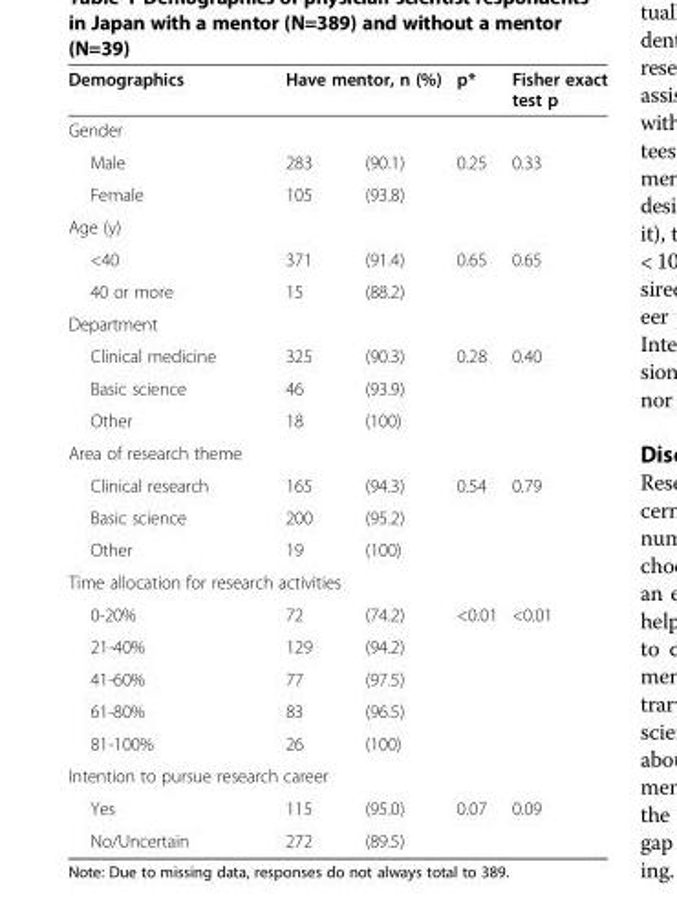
<table><thead><tr><td rowspan="2">Demographics Gender</td><td colspan="2">Have mentor, n (%)</td><td rowspan="2">p*</td><td rowspan="2">Fisher exact test p</td></tr><tr><td></td><td></td></tr></thead><tbody><tr><td>Male</td><td>283</td><td>(90.1)</td><td>0.25</td><td>0.33</td></tr><tr><td>Female</td><td>105</td><td>(93.8)</td><td></td><td></td></tr><tr><td colspan="5">Age (y)</td></tr><tr><td>&lt;40</td><td>371</td><td>(91.4)</td><td>0.65</td><td>0.65</td></tr><tr><td>40 or more</td><td>15</td><td>(88.2)</td><td></td><td></td></tr><tr><td colspan="5">Department</td></tr><tr><td>Clinical medicine</td><td>325</td><td>(90.3)</td><td>0.28</td><td>0.40</td></tr><tr><td>Basic science</td><td>46</td><td>(93.9)</td><td></td><td></td></tr><tr><td>Other</td><td>18</td><td>(100)</td><td></td><td></td></tr><tr><td colspan="5">Area of research theme</td></tr><tr><td>Clinical research</td><td>165</td><td>(94.3)</td><td>0.54</td><td>0.79</td></tr><tr><td>Basic science</td><td>200</td><td>(95.2)</td><td></td><td></td></tr><tr><td>Other</td><td>19</td><td>(100)</td><td></td><td></td></tr><tr><td colspan="5">Time allocation for research activities</td></tr><tr><td>0-20%</td><td>72</td><td>(74.2)</td><td>&lt;0.01</td><td>&lt;0.01</td></tr><tr><td>21-40%</td><td>129</td><td>(94.2)</td><td></td><td></td></tr><tr><td>41-60%</td><td>77</td><td>(97.5)</td><td></td><td></td></tr><tr><td>61-80%</td><td>83</td><td>(96.5)</td><td></td><td></td></tr><tr><td>81-100%</td><td>26</td><td>(100)</td><td></td><td></td></tr><tr><td colspan="5">Intention to pursue research career</td></tr><tr><td>Yes</td><td>115</td><td>(95.0)</td><td>0.07</td><td>0.09</td></tr><tr><td>No/Uncertain</td><td>272</td><td>(89.5)</td><td></td><td></td></tr></tbody></table>